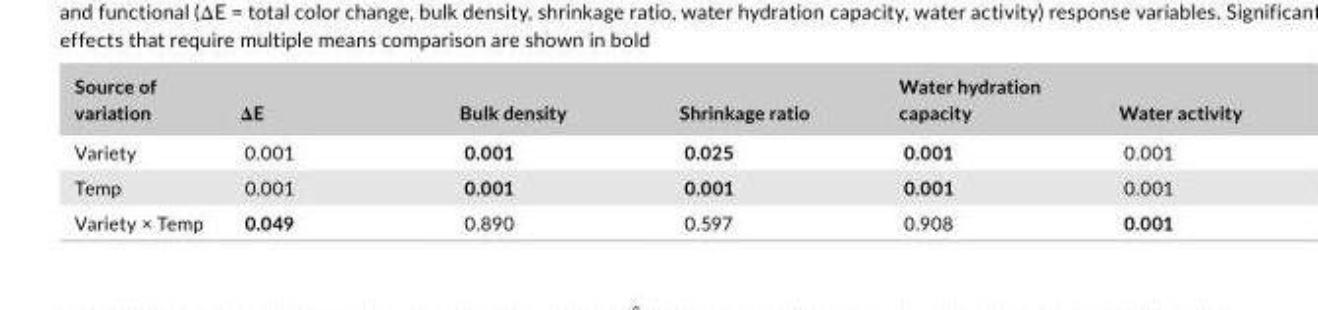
<table><thead><tr><td>Source of variation</td><td>ΔE</td><td>Bulk density</td><td>Shrinkage ratio</td><td>Water hydration capacity</td><td>Water activity</td></tr></thead><tbody><tr><td>Variety</td><td>0.001</td><td>0.001</td><td>0.025</td><td>0.001</td><td>0.001</td></tr><tr><td>Temp</td><td>0.001</td><td>0.001</td><td>0.001</td><td>0.001</td><td>0.001</td></tr><tr><td>Variety × Temp</td><td>0.049</td><td>0.890</td><td>0.597</td><td>0.908</td><td>0.001</td></tr></tbody></table>